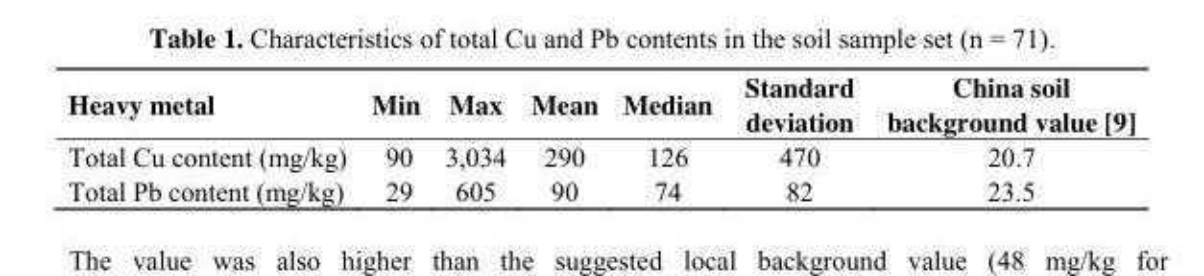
<table><thead><tr><td>Heavy metal</td><td>Min</td><td>Max</td><td>Mean</td><td>Median</td><td>Standard deviation</td><td>China soil background value [9]</td></tr></thead><tbody><tr><td>Total Cu content (mg/kg)</td><td>90</td><td>3,034</td><td>290</td><td>126</td><td>470</td><td>20.7</td></tr><tr><td>Total Pb content (mg/kg)</td><td>29</td><td>605</td><td>90</td><td>74</td><td>82</td><td>23.5</td></tr></tbody></table>